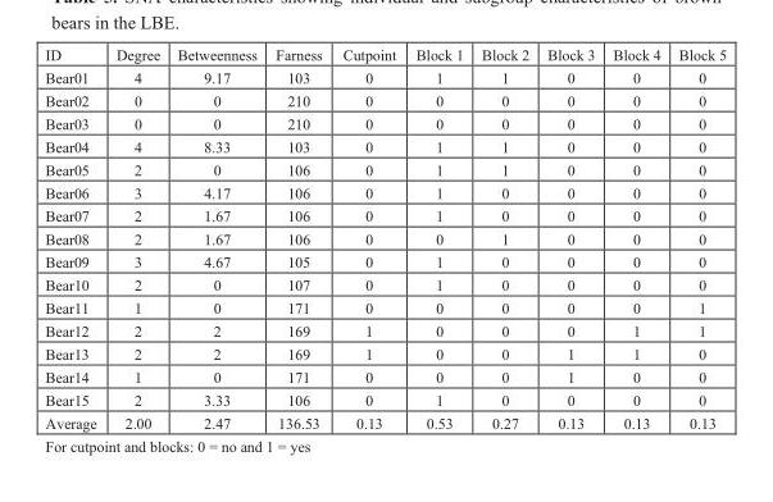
<table><tbody><tr><td>ID</td><td>Degree</td><td>Betweenness</td><td>Farness</td><td>Cutpoint</td><td>Block 1</td><td>Block 2</td><td>Block 3</td><td>Block 4</td><td>Block 5</td></tr><tr><td>Bear01</td><td>4</td><td>9.17</td><td>103</td><td>0</td><td>1</td><td>1</td><td>0</td><td>0</td><td>0</td></tr><tr><td>Bear02</td><td>0</td><td>0</td><td>210</td><td>0</td><td>0</td><td>0</td><td>0</td><td>0</td><td>0</td></tr><tr><td>Bear03</td><td>0</td><td>0</td><td>210</td><td>0</td><td>0</td><td>0</td><td>0</td><td>0</td><td>0</td></tr><tr><td>Bear04</td><td>4</td><td>8.33</td><td>103</td><td>0</td><td>1</td><td>1</td><td>0</td><td>0</td><td>0</td></tr><tr><td>Bear05</td><td>2</td><td>0</td><td>106</td><td>0</td><td>1</td><td>1</td><td>0</td><td>0</td><td>0</td></tr><tr><td>Bear06</td><td>3</td><td>4.17</td><td>106</td><td>0</td><td>1</td><td>0</td><td>0</td><td>0</td><td>0</td></tr><tr><td>Bear07</td><td>2</td><td>1.67</td><td>106</td><td>0</td><td>1</td><td>0</td><td>0</td><td>0</td><td>0</td></tr><tr><td>Bear08</td><td>2</td><td>1.67</td><td>106</td><td>0</td><td>0</td><td>1</td><td>0</td><td>0</td><td>0</td></tr><tr><td>Bear09</td><td>3</td><td>4.67</td><td>105</td><td>0</td><td>1</td><td>0</td><td>0</td><td>0</td><td>0</td></tr><tr><td>Bear10</td><td>2</td><td>0</td><td>107</td><td>0</td><td>1</td><td>0</td><td>0</td><td>0</td><td>0</td></tr><tr><td>Bear11</td><td>1</td><td>0</td><td>171</td><td>0</td><td>0</td><td>0</td><td>0</td><td>0</td><td>1</td></tr><tr><td>Bear12</td><td>2</td><td>2</td><td>169</td><td>1</td><td>0</td><td>0</td><td>0</td><td>1</td><td>1</td></tr><tr><td>Bear13</td><td>2</td><td>2</td><td>169</td><td>1</td><td>0</td><td>0</td><td>1</td><td>1</td><td>0</td></tr><tr><td>Bear14</td><td>1</td><td>0</td><td>171</td><td>0</td><td>0</td><td>0</td><td>1</td><td>0</td><td>0</td></tr><tr><td>Bear15</td><td>2</td><td>3.33</td><td>106</td><td>0</td><td>1</td><td>0</td><td>0</td><td>0</td><td>0</td></tr><tr><td>Average</td><td>2.00</td><td>2.47</td><td>136.53</td><td>0.13</td><td>0.53</td><td>0.27</td><td>0.13</td><td>0.13</td><td>0.13</td></tr><tr><td colspan="4">For cutpoint and blocks: 0 = no and 1 = yes</td><td></td><td></td><td></td><td></td><td></td><td></td></tr></tbody></table>